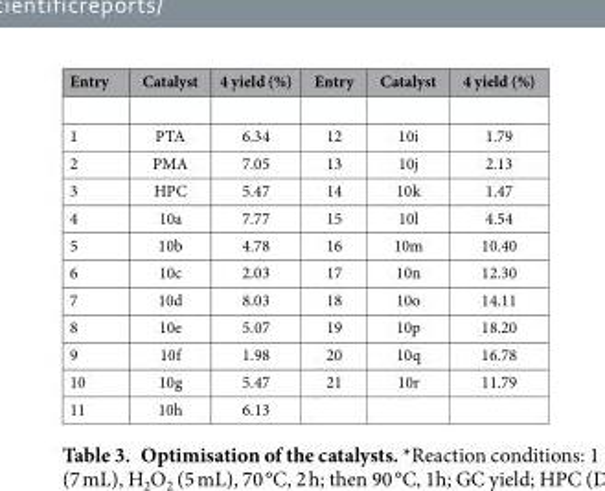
<table><thead><tr><td>Entry</td><td>Catalyst</td><td>4 yield (%)</td><td>Entry</td><td>Catalyst</td><td>4 yield (%)</td></tr></thead><tbody><tr><td>1</td><td>PTA</td><td>6.34</td><td>12</td><td>10i</td><td>1.79</td></tr><tr><td>2</td><td>PMA</td><td>7.05</td><td>13</td><td>10j</td><td>2.13</td></tr><tr><td>3</td><td>HPC</td><td>5.47</td><td>14</td><td>10k</td><td>1.47</td></tr><tr><td>4</td><td>10a</td><td>7.77</td><td>15</td><td>10l</td><td>4.54</td></tr><tr><td>5</td><td>10b</td><td>4.78</td><td>16</td><td>10m</td><td>10.40</td></tr><tr><td>6</td><td>10c</td><td>2.03</td><td>17</td><td>10n</td><td>12.30</td></tr><tr><td>7</td><td>10d</td><td>8.03</td><td>18</td><td>10o</td><td>14.11</td></tr><tr><td>8</td><td>10e</td><td>5.07</td><td>19</td><td>10p</td><td>18.20</td></tr><tr><td>9</td><td>10f</td><td>1.98</td><td>20</td><td>10q</td><td>16.78</td></tr><tr><td>10</td><td>10g</td><td>5.47</td><td>21</td><td>10r</td><td>11.79</td></tr><tr><td>11</td><td>10h</td><td>6.13</td><td></td><td></td><td></td></tr></tbody></table>